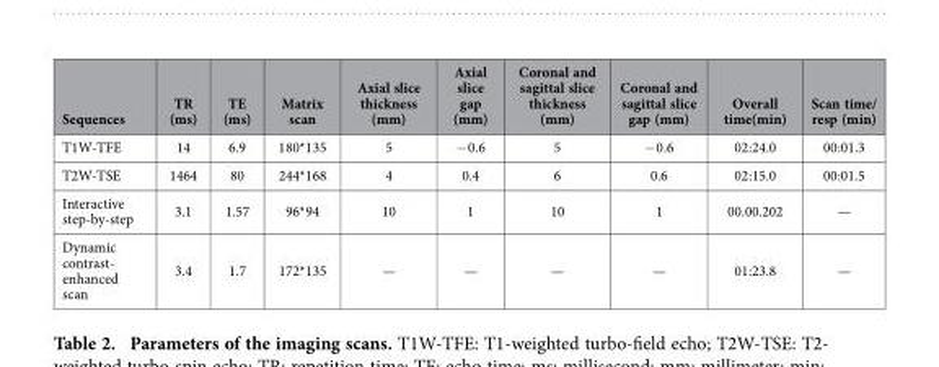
<table><thead><tr><td>Sequences</td><td>TR (ms)</td><td>TE (ms)</td><td>Matrix scan</td><td>Axial slice thickness (mm)</td><td>Axial slice gap (mm)</td><td>Coronal and sagittal slice thickness (mm)</td><td>Coronal and sagittal slice gap (mm)</td><td>Overall time(min)</td><td>Scan time/ resp (min)</td></tr></thead><tbody><tr><td>T1W-TFE</td><td>14</td><td>6.9</td><td>180*135</td><td>5</td><td>− 0.6</td><td>5</td><td>− 0.6</td><td>02:24.0</td><td>00:01.3</td></tr><tr><td>T2W-TSE</td><td>1464</td><td>80</td><td>244*168</td><td>4</td><td>0.4</td><td>6</td><td>0.6</td><td>02:15.0</td><td>00:01.5</td></tr><tr><td>Interactive step-by-step</td><td>3.1</td><td>1.57</td><td>96*94</td><td>10</td><td>1</td><td>10</td><td>1</td><td>00.00.202</td><td>—</td></tr><tr><td>Dynamic contrast- enhanced scan</td><td>3.4</td><td>1.7</td><td>172*135</td><td>—</td><td>—</td><td>—</td><td>—</td><td>01:23.8</td><td>—</td></tr></tbody></table>